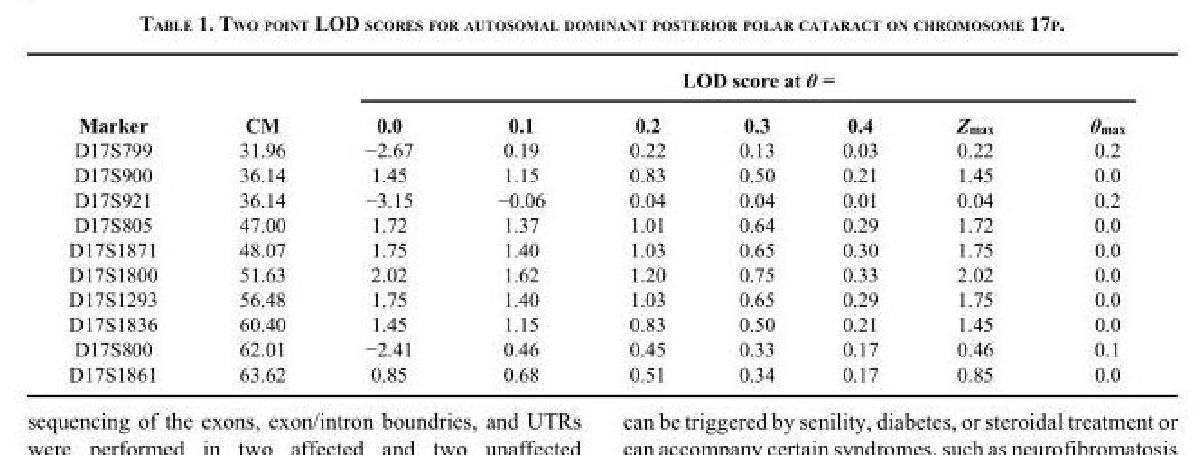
<table><thead><tr><td rowspan="2">Marker</td><td rowspan="2">CM</td><td colspan="7">LOD score at θ =</td></tr><tr><td>0.0</td><td>0.1</td><td>0.2</td><td>0.3</td><td>0.4</td><td>Z<sub>max</sub></td><td>θ<sub>max</sub></td></tr></thead><tbody><tr><td>D17S799</td><td>31.96</td><td>−2.67</td><td>0.19</td><td>0.22</td><td>0.13</td><td>0.03</td><td>0.22</td><td>0.2</td></tr><tr><td>D17S900</td><td>36.14</td><td>1.45</td><td>1.15</td><td>0.83</td><td>0.50</td><td>0.21</td><td>1.45</td><td>0.0</td></tr><tr><td>D17S921</td><td>36.14</td><td>−3.15</td><td>−0.06</td><td>0.04</td><td>0.04</td><td>0.01</td><td>0.04</td><td>0.2</td></tr><tr><td>D17S805</td><td>47.00</td><td>1.72</td><td>1.37</td><td>1.01</td><td>0.64</td><td>0.29</td><td>1.72</td><td>0.0</td></tr><tr><td>D17S1871</td><td>48.07</td><td>1.75</td><td>1.40</td><td>1.03</td><td>0.65</td><td>0.30</td><td>1.75</td><td>0.0</td></tr><tr><td>D17S1800</td><td>51.63</td><td>2.02</td><td>1.62</td><td>1.20</td><td>0.75</td><td>0.33</td><td>2.02</td><td>0.0</td></tr><tr><td>D17S1293</td><td>56.48</td><td>1.75</td><td>1.40</td><td>1.03</td><td>0.65</td><td>0.29</td><td>1.75</td><td>0.0</td></tr><tr><td>D17S1836</td><td>60.40</td><td>1.45</td><td>1.15</td><td>0.83</td><td>0.50</td><td>0.21</td><td>1.45</td><td>0.0</td></tr><tr><td>D17S800</td><td>62.01</td><td>−2.41</td><td>0.46</td><td>0.45</td><td>0.33</td><td>0.17</td><td>0.46</td><td>0.1</td></tr><tr><td>D17S1861</td><td>63.62</td><td>0.85</td><td>0.68</td><td>0.51</td><td>0.34</td><td>0.17</td><td>0.85</td><td>0.0</td></tr></tbody></table>